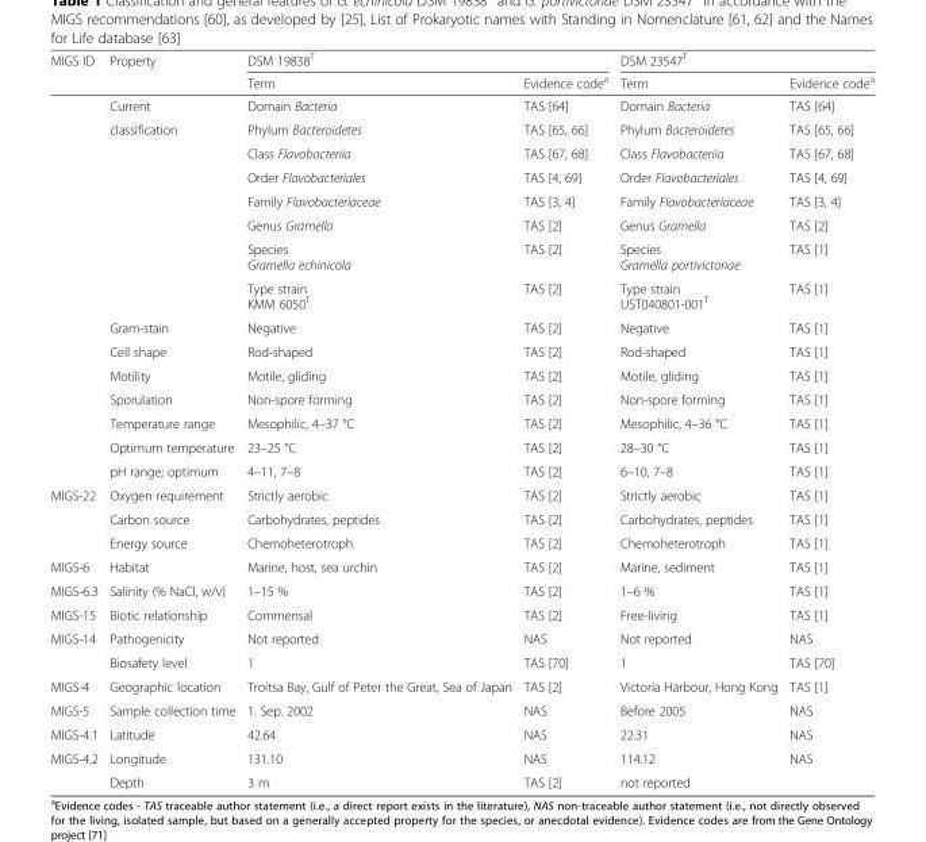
<table><thead><tr><td rowspan="2">MIGS ID</td><td rowspan="2">Property</td><td colspan="2">DSM 19838<sup>T</sup></td><td colspan="2">DSM 23547<sup>T</sup></td></tr><tr><td>Term</td><td>Evidence code<sup>a</sup></td><td>Term</td><td>Evidence code<sup>a</sup></td></tr></thead><tbody><tr><td></td><td>Current</td><td>Domain Bacteria</td><td>TAS [64]</td><td>Domain Bacteria</td><td>TAS [64]</td></tr><tr><td></td><td>classification</td><td>Phylum Bacteroidetes</td><td>TAS [65, 66]</td><td>Phylum Bacteroidetes</td><td>TAS [65, 66]</td></tr><tr><td></td><td></td><td>Class Flavobacteriia</td><td>TAS [67, 68]</td><td>Class Flavobacteriia</td><td>TAS [67, 68]</td></tr><tr><td></td><td></td><td>Order Flavobacteriales</td><td>TAS [4, 69]</td><td>Order Flavobacteriales</td><td>TAS [4, 69]</td></tr><tr><td></td><td></td><td>Family Flavobacteriaceae</td><td>TAS [3, 4]</td><td>Family Flavobacteriaceae</td><td>TAS [3, 4]</td></tr><tr><td></td><td></td><td>Genus Gramella</td><td>TAS [2]</td><td>Genus Gramella</td><td>TAS [2]</td></tr><tr><td></td><td></td><td>Species Gramella echinicola</td><td>TAS [2]</td><td>Species Gramella portivictoriae</td><td>TAS [1]</td></tr><tr><td></td><td></td><td>Type strain KMM 6050<sup>T</sup></td><td>TAS [2]</td><td>Type strain UST040801-001<sup>T</sup></td><td>TAS [1]</td></tr><tr><td></td><td>Gram-stain</td><td>Negative</td><td>TAS [2]</td><td>Negative</td><td>TAS [1]</td></tr><tr><td></td><td>Cell shape</td><td>Rod-shaped</td><td>TAS [2]</td><td>Rod-shaped</td><td>TAS [1]</td></tr><tr><td></td><td>Motility</td><td>Motile, gliding</td><td>TAS [2]</td><td>Motile, gliding</td><td>TAS [1]</td></tr><tr><td></td><td>Sporulation</td><td>Non-spore forming</td><td>TAS [2]</td><td>Non-spore forming</td><td>TAS [1]</td></tr><tr><td></td><td>Temperature range</td><td>Mesophilic, 4–37 °C</td><td>TAS [2]</td><td>Mesophilic, 4–36 °C</td><td>TAS [1]</td></tr><tr><td></td><td>Optimum temperature</td><td>23–25 °C</td><td>TAS [2]</td><td>28–30 °C</td><td>TAS [1]</td></tr><tr><td></td><td>pH range; optimum</td><td>4–11, 7–8</td><td>TAS [2]</td><td>6–10, 7–8</td><td>TAS [1]</td></tr><tr><td rowspan="3">MIGS-22</td><td>Oxygen requirement</td><td>Strictly aerobic</td><td>TAS [2]</td><td>Strictly aerobic</td><td>TAS [1]</td></tr><tr><td>Carbon source</td><td>Carbohydrates, peptides</td><td>TAS [2]</td><td>Carbohydrates, peptides</td><td>TAS [1]</td></tr><tr><td>Energy source</td><td>Chemoheterotroph</td><td>TAS [2]</td><td>Chemoheterotroph</td><td>TAS [1]</td></tr><tr><td>MIGS-6</td><td>Habitat</td><td>Marine, host, sea urchin</td><td>TAS [2]</td><td>Marine, sediment</td><td>TAS [1]</td></tr><tr><td>MIGS-6.3</td><td>Salinity (% NaCl, w/v)</td><td>1–15 %</td><td>TAS [2]</td><td>1–6 %</td><td>TAS [1]</td></tr><tr><td>MIGS-15</td><td>Biotic relationship</td><td>Commensal</td><td>TAS [2]</td><td>Free-living</td><td>TAS [1]</td></tr><tr><td rowspan="2">MIGS-14</td><td>Pathogenicity</td><td>Not reported</td><td>NAS</td><td>Not reported</td><td>NAS</td></tr><tr><td>Biosafety level</td><td>1</td><td>TAS [70]</td><td>1</td><td>TAS [70]</td></tr><tr><td>MIGS-4</td><td>Geographic location</td><td>Troitsa Bay, Gulf of Peter the Great, Sea of Japan</td><td>TAS [2]</td><td>Victoria Harbour, Hong Kong</td><td>TAS [1]</td></tr><tr><td>MIGS-5</td><td>Sample collection time</td><td>1. Sep. 2002</td><td>NAS</td><td>Before 2005</td><td>NAS</td></tr><tr><td>MIGS-4.1</td><td>Latitude</td><td>42.64</td><td>NAS</td><td>22.31</td><td>NAS</td></tr><tr><td rowspan="2">MIGS-4.2</td><td>Longitude</td><td>131.10</td><td>NAS</td><td>114.12</td><td>NAS</td></tr><tr><td>Depth</td><td>3 m</td><td>TAS [2]</td><td>not reported</td><td></td></tr></tbody></table>